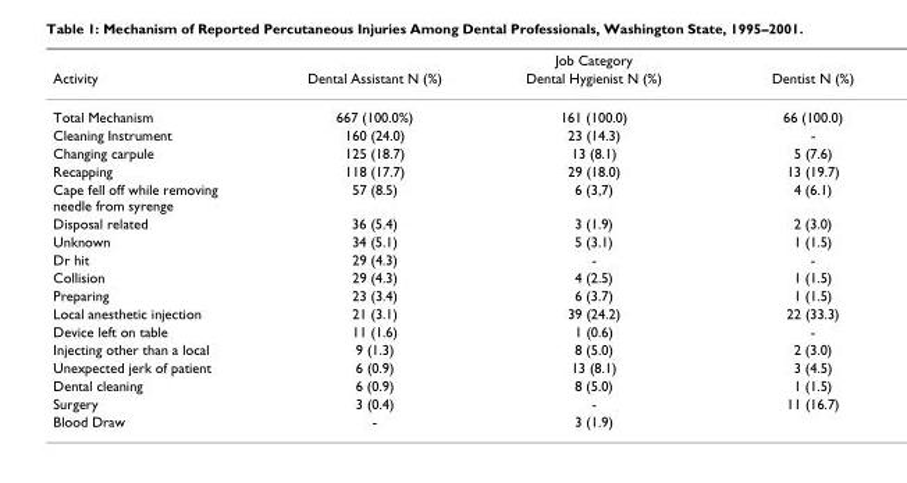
<table><thead><tr><td rowspan="2">Activity</td><td colspan="3">Job Category</td></tr><tr><td>Dental Assistant N (%)</td><td>Dental Hygienist N (%)</td><td>Dentist N (%)</td></tr></thead><tbody><tr><td>Total Mechanism</td><td>667 (100.0%)</td><td>161 (100.0)</td><td>66 (100.0)</td></tr><tr><td>Cleaning Instrument</td><td>160 (24.0)</td><td>23 (14.3)</td><td>-</td></tr><tr><td>Changing carpule</td><td>125 (18.7)</td><td>13 (8.1)</td><td>5 (7.6)</td></tr><tr><td>Recapping</td><td>118 (17.7)</td><td>29 (18.0)</td><td>13 (19.7)</td></tr><tr><td>Cape fell off while removing needle from syrenge</td><td>57 (8.5)</td><td>6 (3,7)</td><td>4 (6.1)</td></tr><tr><td>Disposal related</td><td>36 (5.4)</td><td>3 (1.9)</td><td>2 (3.0)</td></tr><tr><td>Unknown</td><td>34 (5.1)</td><td>5 (3.1)</td><td>1 (1.5)</td></tr><tr><td>Dr hit</td><td>29 (4.3)</td><td>-</td><td>-</td></tr><tr><td>Collision</td><td>29 (4.3)</td><td>4 (2.5)</td><td>1 (1.5)</td></tr><tr><td>Preparing</td><td>23 (3.4)</td><td>6 (3.7)</td><td>1 (1.5)</td></tr><tr><td>Local anesthetic injection</td><td>21 (3.1)</td><td>39 (24.2)</td><td>22 (33.3)</td></tr><tr><td>Device left on table</td><td>11 (1.6)</td><td>1 (0.6)</td><td>-</td></tr><tr><td>Injecting other than a local</td><td>9 (1.3)</td><td>8 (5.0)</td><td>2 (3.0)</td></tr><tr><td>Unexpected jerk of patient</td><td>6 (0.9)</td><td>13 (8.1)</td><td>3 (4.5)</td></tr><tr><td>Dental cleaning</td><td>6 (0.9)</td><td>8 (5.0)</td><td>1 (1.5)</td></tr><tr><td>Surgery</td><td>3 (0.4)</td><td>-</td><td>11 (16.7)</td></tr><tr><td>Blood Draw</td><td>-</td><td>3 (1.9)</td><td></td></tr></tbody></table>